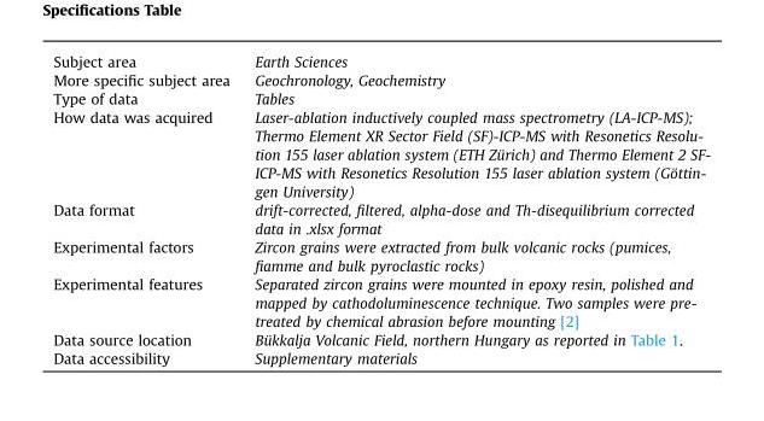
<table><tbody><tr><td>Subject area</td><td>Earth Sciences</td></tr><tr><td>More specific subject area</td><td>Geochronology, Geochemistry</td></tr><tr><td>Type of data</td><td>Tables</td></tr><tr><td>How data was acquired</td><td>Laser-ablation inductively coupled mass spectrometry (LA-ICP-MS); Thermo Element XR Sector Field (SF)-ICP-MS with Resonetics Resolu- tion 155 laser ablation system (ETH Zürich) and Thermo Element 2 SF- ICP-MS with Resonetics Resolution 155 laser ablation system (Göttin- gen University)</td></tr><tr><td>Data format</td><td>drift-corrected, filtered, alpha-dose and Th-disequilibrium corrected data in .xlsx format</td></tr><tr><td>Experimental factors</td><td>Zircon grains were extracted from bulk volcanic rocks (pumices, fiamme and bulk pyroclastic rocks)</td></tr><tr><td>Experimental features</td><td>Separated zircon grains were mounted in epoxy resin, polished and mapped by cathodoluminescence technique. Two samples were pre- treated by chemical abrasion before mounting [2]</td></tr><tr><td>Data source location</td><td>Bükkalja Volcanic Field, northern Hungary as reported in Table 1.</td></tr><tr><td>Data accessibility</td><td>Supplementary materials</td></tr></tbody></table>